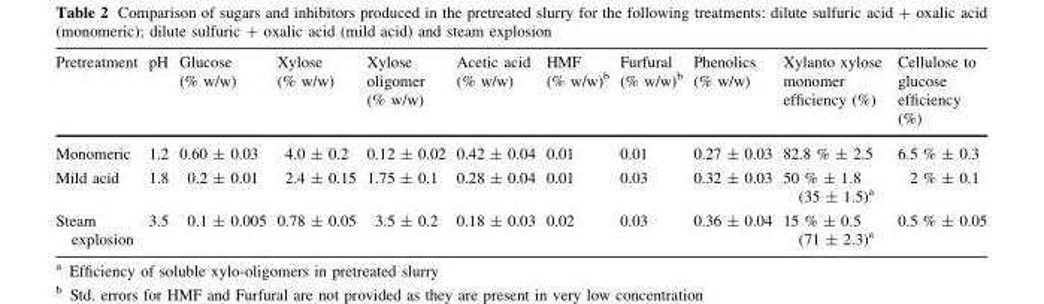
<table><thead><tr><td>Pretreatment</td><td>pH</td><td>Glucose (% w/w)</td><td>Xylose (% w/w)</td><td>Xylose oligomer (% w/w)</td><td>Acetic acid (% w/w)</td><td>HMF (% w/w)<sup>b</sup></td><td>Furfural (% w/w)<sup>b</sup></td><td>Phenolics (% w/w)</td><td>Xylanto xylose monomer efficiency (%)</td><td>Cellulose to glucose efficiency (%)</td></tr></thead><tbody><tr><td>Monomeric</td><td>1.2</td><td>0.60 ± 0.03</td><td>4.0 ± 0.2</td><td>0.12 ± 0.02</td><td>0.42 ± 0.04</td><td>0.01</td><td>0.01</td><td>0.27 ± 0.03</td><td>82.8 % ± 2.5</td><td>6.5 % ± 0.3</td></tr><tr><td>Mild acid</td><td>1.8</td><td>0.2 ± 0.01</td><td>2.4 ± 0.15</td><td>1.75 ± 0.1</td><td>0.28 ± 0.04</td><td>0.01</td><td>0.03</td><td>0.32 ± 0.03</td><td>50 % ± 1.8 (35 ± 1.5)<sup>a</sup></td><td>2 % ± 0.1</td></tr><tr><td>Steam explosion</td><td>3.5</td><td>0.1 ± 0.005</td><td>0.78 ± 0.05</td><td>3.5 ± 0.2</td><td>0.18 ± 0.03</td><td>0.02</td><td>0.03</td><td>0.36 ± 0.04</td><td>15 % ± 0.5 (71 ± 2.3)<sup>a</sup></td><td>0.5 % ± 0.05</td></tr></tbody></table>